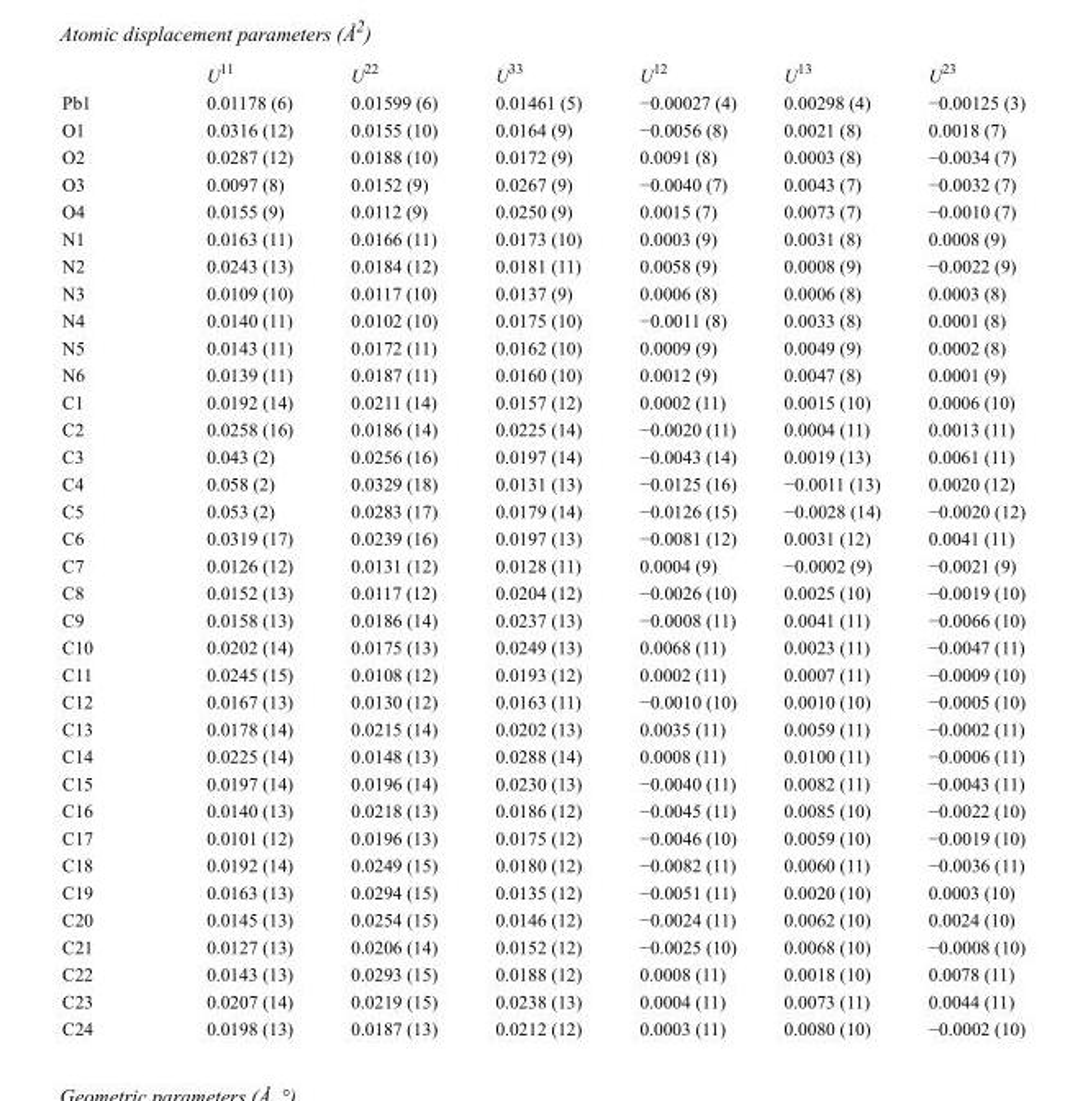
<table><thead><tr><td></td><td>U<sup>11</sup></td><td>U<sup>22</sup></td><td>U<sup>33</sup></td><td>U<sup>12</sup></td><td>U<sup>13</sup></td><td>U<sup>23</sup></td></tr></thead><tbody><tr><td>Pb1</td><td>0.01178 (6)</td><td>0.01599 (6)</td><td>0.01461 (5)</td><td>−0.00027 (4)</td><td>0.00298 (4)</td><td>−0.00125 (3)</td></tr><tr><td>O1</td><td>0.0316 (12)</td><td>0.0155 (10)</td><td>0.0164 (9)</td><td>−0.0056 (8)</td><td>0.0021 (8)</td><td>0.0018 (7)</td></tr><tr><td>O2</td><td>0.0287 (12)</td><td>0.0188 (10)</td><td>0.0172 (9)</td><td>0.0091 (8)</td><td>0.0003 (8)</td><td>−0.0034 (7)</td></tr><tr><td>O3</td><td>0.0097 (8)</td><td>0.0152 (9)</td><td>0.0267 (9)</td><td>−0.0040 (7)</td><td>0.0043 (7)</td><td>−0.0032 (7)</td></tr><tr><td>O4</td><td>0.0155 (9)</td><td>0.0112 (9)</td><td>0.0250 (9)</td><td>0.0015 (7)</td><td>0.0073 (7)</td><td>−0.0010 (7)</td></tr><tr><td>N1</td><td>0.0163 (11)</td><td>0.0166 (11)</td><td>0.0173 (10)</td><td>0.0003 (9)</td><td>0.0031 (8)</td><td>0.0008 (9)</td></tr><tr><td>N2</td><td>0.0243 (13)</td><td>0.0184 (12)</td><td>0.0181 (11)</td><td>0.0058 (9)</td><td>0.0008 (9)</td><td>−0.0022 (9)</td></tr><tr><td>N3</td><td>0.0109 (10)</td><td>0.0117 (10)</td><td>0.0137 (9)</td><td>0.0006 (8)</td><td>0.0006 (8)</td><td>0.0003 (8)</td></tr><tr><td>N4</td><td>0.0140 (11)</td><td>0.0102 (10)</td><td>0.0175 (10)</td><td>−0.0011 (8)</td><td>0.0033 (8)</td><td>0.0001 (8)</td></tr><tr><td>N5</td><td>0.0143 (11)</td><td>0.0172 (11)</td><td>0.0162 (10)</td><td>0.0009 (9)</td><td>0.0049 (9)</td><td>0.0002 (8)</td></tr><tr><td>N6</td><td>0.0139 (11)</td><td>0.0187 (11)</td><td>0.0160 (10)</td><td>0.0012 (9)</td><td>0.0047 (8)</td><td>0.0001 (9)</td></tr><tr><td>C1</td><td>0.0192 (14)</td><td>0.0211 (14)</td><td>0.0157 (12)</td><td>0.0002 (11)</td><td>0.0015 (10)</td><td>0.0006 (10)</td></tr><tr><td>C2</td><td>0.0258 (16)</td><td>0.0186 (14)</td><td>0.0225 (14)</td><td>−0.0020 (11)</td><td>0.0004 (11)</td><td>0.0013 (11)</td></tr><tr><td>C3</td><td>0.043 (2)</td><td>0.0256 (16)</td><td>0.0197 (14)</td><td>−0.0043 (14)</td><td>0.0019 (13)</td><td>0.0061 (11)</td></tr><tr><td>C4</td><td>0.058 (2)</td><td>0.0329 (18)</td><td>0.0131 (13)</td><td>−0.0125 (16)</td><td>−0.0011 (13)</td><td>0.0020 (12)</td></tr><tr><td>C5</td><td>0.053 (2)</td><td>0.0283 (17)</td><td>0.0179 (14)</td><td>−0.0126 (15)</td><td>−0.0028 (14)</td><td>−0.0020 (12)</td></tr><tr><td>C6</td><td>0.0319 (17)</td><td>0.0239 (16)</td><td>0.0197 (13)</td><td>−0.0081 (12)</td><td>0.0031 (12)</td><td>0.0041 (11)</td></tr><tr><td>C7</td><td>0.0126 (12)</td><td>0.0131 (12)</td><td>0.0128 (11)</td><td>0.0004 (9)</td><td>−0.0002 (9)</td><td>−0.0021 (9)</td></tr><tr><td>C8</td><td>0.0152 (13)</td><td>0.0117 (12)</td><td>0.0204 (12)</td><td>−0.0026 (10)</td><td>0.0025 (10)</td><td>−0.0019 (10)</td></tr><tr><td>C9</td><td>0.0158 (13)</td><td>0.0186 (14)</td><td>0.0237 (13)</td><td>−0.0008 (11)</td><td>0.0041 (11)</td><td>−0.0066 (10)</td></tr><tr><td>C10</td><td>0.0202 (14)</td><td>0.0175 (13)</td><td>0.0249 (13)</td><td>0.0068 (11)</td><td>0.0023 (11)</td><td>−0.0047 (11)</td></tr><tr><td>C11</td><td>0.0245 (15)</td><td>0.0108 (12)</td><td>0.0193 (12)</td><td>0.0002 (11)</td><td>0.0007 (11)</td><td>−0.0009 (10)</td></tr><tr><td>C12</td><td>0.0167 (13)</td><td>0.0130 (12)</td><td>0.0163 (11)</td><td>−0.0010 (10)</td><td>0.0010 (10)</td><td>−0.0005 (10)</td></tr><tr><td>C13</td><td>0.0178 (14)</td><td>0.0215 (14)</td><td>0.0202 (13)</td><td>0.0035 (11)</td><td>0.0059 (11)</td><td>−0.0002 (11)</td></tr><tr><td>C14</td><td>0.0225 (14)</td><td>0.0148 (13)</td><td>0.0288 (14)</td><td>0.0008 (11)</td><td>0.0100 (11)</td><td>−0.0006 (11)</td></tr><tr><td>C15</td><td>0.0197 (14)</td><td>0.0196 (14)</td><td>0.0230 (13)</td><td>−0.0040 (11)</td><td>0.0082 (11)</td><td>−0.0043 (11)</td></tr><tr><td>C16</td><td>0.0140 (13)</td><td>0.0218 (13)</td><td>0.0186 (12)</td><td>−0.0045 (11)</td><td>0.0085 (10)</td><td>−0.0022 (10)</td></tr><tr><td>C17</td><td>0.0101 (12)</td><td>0.0196 (13)</td><td>0.0175 (12)</td><td>−0.0046 (10)</td><td>0.0059 (10)</td><td>−0.0019 (10)</td></tr><tr><td>C18</td><td>0.0192 (14)</td><td>0.0249 (15)</td><td>0.0180 (12)</td><td>−0.0082 (11)</td><td>0.0060 (11)</td><td>−0.0036 (11)</td></tr><tr><td>C19</td><td>0.0163 (13)</td><td>0.0294 (15)</td><td>0.0135 (12)</td><td>−0.0051 (11)</td><td>0.0020 (10)</td><td>0.0003 (10)</td></tr><tr><td>C20</td><td>0.0145 (13)</td><td>0.0254 (15)</td><td>0.0146 (12)</td><td>−0.0024 (11)</td><td>0.0062 (10)</td><td>0.0024 (10)</td></tr><tr><td>C21</td><td>0.0127 (13)</td><td>0.0206 (14)</td><td>0.0152 (12)</td><td>−0.0025 (10)</td><td>0.0068 (10)</td><td>−0.0008 (10)</td></tr><tr><td>C22</td><td>0.0143 (13)</td><td>0.0293 (15)</td><td>0.0188 (12)</td><td>0.0008 (11)</td><td>0.0018 (10)</td><td>0.0078 (11)</td></tr><tr><td>C23</td><td>0.0207 (14)</td><td>0.0219 (15)</td><td>0.0238 (13)</td><td>0.0004 (11)</td><td>0.0073 (11)</td><td>0.0044 (11)</td></tr><tr><td>C24</td><td>0.0198 (13)</td><td>0.0187 (13)</td><td>0.0212 (12)</td><td>0.0003 (11)</td><td>0.0080 (10)</td><td>−0.0002 (10)</td></tr></tbody></table>